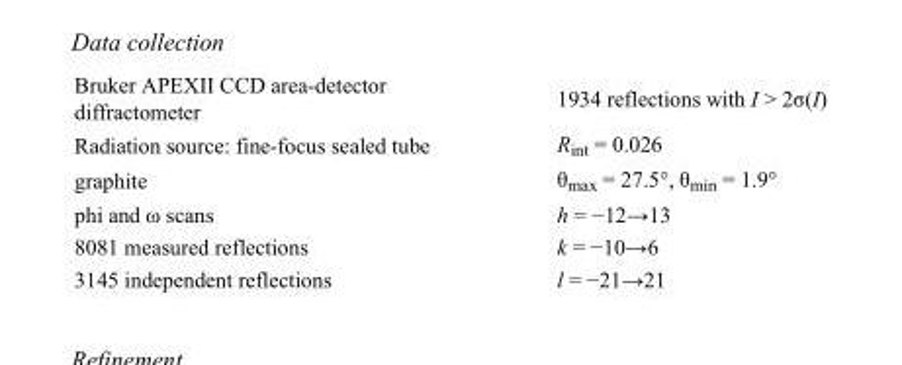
<table><tbody><tr><td>Bruker APEXII CCD area-detector diffractometer</td><td>1934 reflections with I &gt; 2σ(I)</td></tr><tr><td>Radiation source: fine-focus sealed tube</td><td>R<sub>int</sub> = 0.026</td></tr><tr><td>graphite</td><td>θ<sub>max</sub> = 27.5°, θ<sub>min</sub> = 1.9°</td></tr><tr><td>phi and ω scans</td><td>h = −12→13</td></tr><tr><td>8081 measured reflections</td><td>k = −10→6</td></tr><tr><td>3145 independent reflections</td><td>l = −21→21</td></tr></tbody></table>